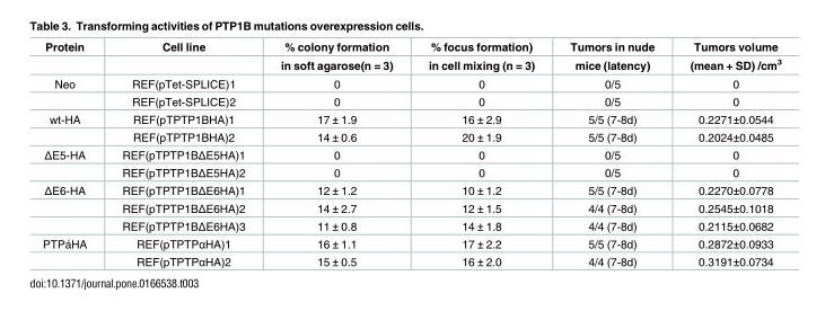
<table><thead><tr><td rowspan="2">Protein</td><td rowspan="2">Cell line</td><td rowspan="2">% colony formation in soft agarose(n = 3)</td><td rowspan="2">% focus formation) in cell mixing (n = 3)</td><td rowspan="2">Tumors in nude mice (latency)</td><td rowspan="2">Tumors volume (mean + SD) /cm<sup>3</sup></td></tr><tr></tr></thead><tbody><tr><td rowspan="2">Neo</td><td>REF(pTet-SPLICE)1</td><td>0</td><td>0</td><td>0/5</td><td>0</td></tr><tr><td>REF(pTet-SPLICE)2</td><td>0</td><td>0</td><td>0/5</td><td>0</td></tr><tr><td rowspan="2">wt-HA</td><td>REF(pTPTP1BHA)1</td><td>17 ± 1.9</td><td>16 ± 2.9</td><td>5/5 (7-8d)</td><td>0.2271±0.0544</td></tr><tr><td>REF(pTPTP1BHA)2</td><td>14 ± 0.6</td><td>20 ± 1.9</td><td>5/5 (7-8d)</td><td>0.2024±0.0485</td></tr><tr><td rowspan="2">ΔE5-HA</td><td>REF(pTPTP1BΔE5HA)1</td><td>0</td><td>0</td><td>0/5</td><td>0</td></tr><tr><td>REF(pTPTP1BΔE5HA)2</td><td>0</td><td>0</td><td>0/5</td><td>0</td></tr><tr><td rowspan="3">ΔE6-HA</td><td>REF(pTPTP1BΔE6HA)1</td><td>12 ± 1.2</td><td>10 ± 1.2</td><td>5/5 (7-8d)</td><td>0.2270±0.0778</td></tr><tr><td>REF(pTPTP1BΔE6HA)2</td><td>14 ± 2.7</td><td>12 ± 1.5</td><td>4/4 (7-8d)</td><td>0.2545±0.1018</td></tr><tr><td>REF(pTPTP1BΔE6HA)3</td><td>11 ± 0.8</td><td>14 ± 1.8</td><td>4/4 (7-8d)</td><td>0.2115±0.0682</td></tr><tr><td rowspan="2">PTPa´HA</td><td>REF(pTPTPαHA)1</td><td>16 ± 1.1</td><td>17 ± 2.2</td><td>5/5 (7-8d)</td><td>0.2872±0.0933</td></tr><tr><td>REF(pTPTPαHA)2</td><td>15 ± 0.5</td><td>16 ± 2.0</td><td>4/4 (7-8d)</td><td>0.3191±0.0734</td></tr></tbody></table>